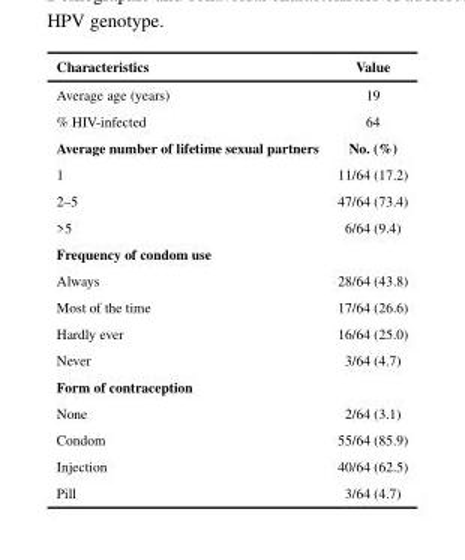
<table><thead><tr><td>Characteristics</td><td>Value</td></tr></thead><tbody><tr><td>Average age (years)</td><td>19</td></tr><tr><td>% HIV-infected</td><td>64</td></tr><tr><td>Average number of lifetime sexual partners</td><td>No. (%)</td></tr><tr><td>1</td><td>11/64 (17.2)</td></tr><tr><td>2–5</td><td>47/64 (73.4)</td></tr><tr><td>&gt;5</td><td>6/64 (9.4)</td></tr><tr><td colspan="2">Frequency of condom use</td></tr><tr><td>Always</td><td>28/64 (43.8)</td></tr><tr><td>Most of the time</td><td>17/64 (26.6)</td></tr><tr><td>Hardly ever</td><td>16/64 (25.0)</td></tr><tr><td>Never</td><td>3/64 (4.7)</td></tr><tr><td colspan="2">Form of contraception</td></tr><tr><td>None</td><td>2/64 (3.1)</td></tr><tr><td>Condom</td><td>55/64 (85.9)</td></tr><tr><td>Injection</td><td>40/64 (62.5)</td></tr><tr><td>Pill</td><td>3/64 (4.7)</td></tr></tbody></table>